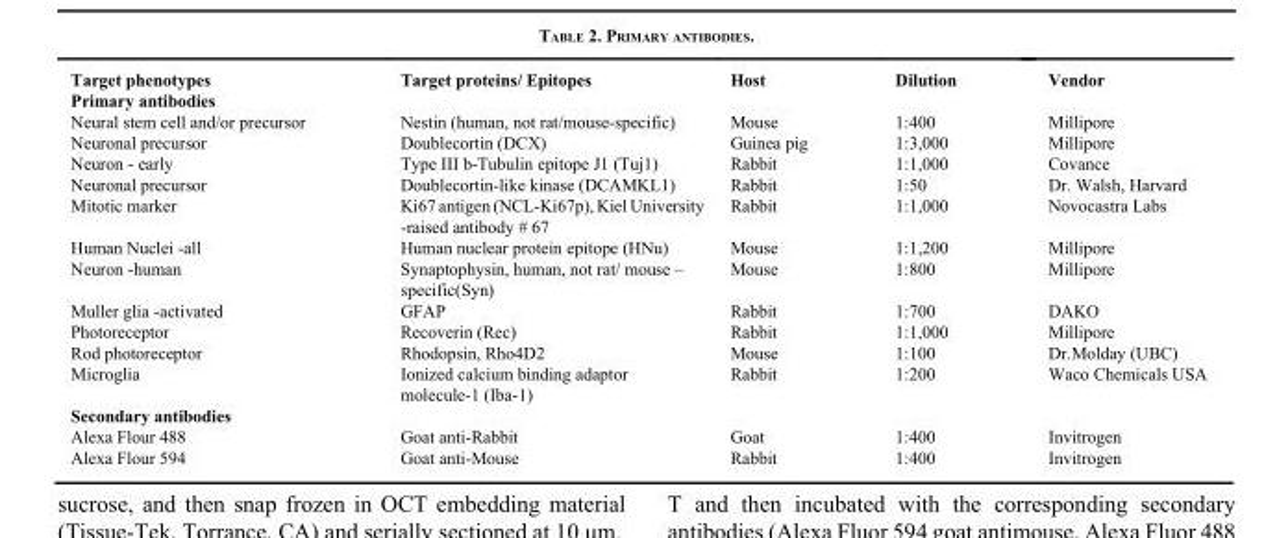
<table><thead><tr><td>Target phenotypes</td><td>Target proteins/ Epitopes</td><td>Host</td><td>Dilution</td><td>Vendor</td></tr></thead><tbody><tr><td colspan="5">Primary antibodies</td></tr><tr><td>Neural stem cell and/or precursor</td><td>Nestin (human, not rat/mouse-specific)</td><td>Mouse</td><td>1:400</td><td>Millipore</td></tr><tr><td>Neuronal precursor</td><td>Doublecortin (DCX)</td><td>Guinea pig</td><td>1:3,000</td><td>Millipore</td></tr><tr><td>Neuron - early</td><td>Type III b-Tubulin epitope J1 (Tuj1)</td><td>Rabbit</td><td>1:1,000</td><td>Covance</td></tr><tr><td>Neuronal precursor</td><td>Doublecortin-like kinase (DCAMKL1)</td><td>Rabbit</td><td>1:50</td><td>Dr. Walsh, Harvard</td></tr><tr><td>Mitotic marker</td><td>Ki67 antigen (NCL-Ki67p), Kiel University -raised antibody # 67</td><td>Rabbit</td><td>1:1,000</td><td>Novocastra Labs</td></tr><tr><td>Human Nuclei -all</td><td>Human nuclear protein epitope (HNu)</td><td>Mouse</td><td>1:1,200</td><td>Millipore</td></tr><tr><td>Neuron -human</td><td>Synaptophysin, human, not rat/ mouse – specific(Syn)</td><td>Mouse</td><td>1:800</td><td>Millipore</td></tr><tr><td>Muller glia -activated</td><td>GFAP</td><td>Rabbit</td><td>1:700</td><td>DAKO</td></tr><tr><td>Photoreceptor</td><td>Recoverin (Rec)</td><td>Rabbit</td><td>1:1,000</td><td>Millipore</td></tr><tr><td>Rod photoreceptor</td><td>Rhodopsin, Rho4D2</td><td>Mouse</td><td>1:100</td><td>Dr.Molday (UBC)</td></tr><tr><td>Microglia</td><td>Ionized calcium binding adaptor molecule-1 (Iba-1)</td><td>Rabbit</td><td>1:200</td><td>Waco Chemicals USA</td></tr><tr><td colspan="5">Secondary antibodies</td></tr><tr><td>Alexa Flour 488</td><td>Goat anti-Rabbit</td><td>Goat</td><td>1:400</td><td>Invitrogen</td></tr><tr><td>Alexa Flour 594</td><td>Goat anti-Mouse</td><td>Rabbit</td><td>1:400</td><td>Invitrogen</td></tr></tbody></table>